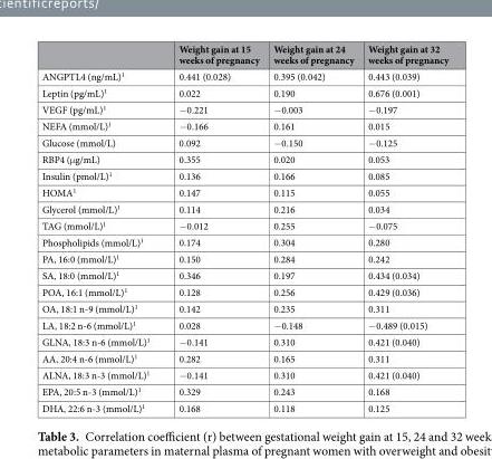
<table><thead><tr><td></td><td>Weight gain at 15 weeks of pregnancy</td><td>Weight gain at 24 weeks of pregnancy</td><td>Weight gain at 32 weeks of pregnancy</td></tr></thead><tbody><tr><td>ANGPTL4 (ng/mL)<sup>1</sup></td><td>0.441 (0.028)</td><td>0.395 (0.042)</td><td>0.443 (0.039)</td></tr><tr><td>Leptin (pg/mL)<sup>1</sup></td><td>0.022</td><td>0.190</td><td>0.676 (0.001)</td></tr><tr><td>VEGF (pg/mL)<sup>1</sup></td><td>−0.221</td><td>−0.003</td><td>−0.197</td></tr><tr><td>NEFA (mmol/L)<sup>1</sup></td><td>−0.166</td><td>0.161</td><td>0.015</td></tr><tr><td>Glucose (mmol/L)</td><td>0.092</td><td>−0.150</td><td>−0.125</td></tr><tr><td>RBP4 (μg/mL)</td><td>0.355</td><td>0.020</td><td>0.053</td></tr><tr><td>Insulin (pmol/L)<sup>1</sup></td><td>0.136</td><td>0.166</td><td>0.085</td></tr><tr><td>HOMA<sup>1</sup></td><td>0.147</td><td>0.115</td><td>0.055</td></tr><tr><td>Glycerol (mmol/L)<sup>1</sup></td><td>0.114</td><td>0.216</td><td>0.034</td></tr><tr><td>TAG (mmol/L)<sup>1</sup></td><td>−0.012</td><td>0.255</td><td>−0.075</td></tr><tr><td>Phospholipids (mmol/L)<sup>1</sup></td><td>0.174</td><td>0.304</td><td>0.280</td></tr><tr><td>PA, 16:0 (mmol/L)<sup>1</sup></td><td>0.150</td><td>0.284</td><td>0.242</td></tr><tr><td>SA, 18:0 (mmol/L)<sup>1</sup></td><td>0.346</td><td>0.197</td><td>0.434 (0.034)</td></tr><tr><td>POA, 16:1 (mmol/L)<sup>1</sup></td><td>0.128</td><td>0.256</td><td>0.429 (0.036)</td></tr><tr><td>OA, 18:1 n-9 (mmol/L)<sup>1</sup></td><td>0.142</td><td>0.235</td><td>0.311</td></tr><tr><td>LA, 18:2 n-6 (mmol/L)<sup>1</sup></td><td>0.028</td><td>−0.148</td><td>−0.489 (0.015)</td></tr><tr><td>GLNA, 18:3 n-6 (mmol/L)<sup>1</sup></td><td>−0.141</td><td>0.310</td><td>0.421 (0.040)</td></tr><tr><td>AA, 20:4 n-6 (mmol/L)<sup>1</sup></td><td>0.282</td><td>0.165</td><td>0.311</td></tr><tr><td>ALNA, 18:3 n-3 (mmol/L)<sup>1</sup></td><td>−0.141</td><td>0.310</td><td>0.421 (0.040)</td></tr><tr><td>EPA, 20:5 n-3 (mmol/L)<sup>1</sup></td><td>0.329</td><td>0.243</td><td>0.168</td></tr><tr><td>DHA, 22:6 n-3 (mmol/L)<sup>1</sup></td><td>0.168</td><td>0.118</td><td>0.125</td></tr></tbody></table>